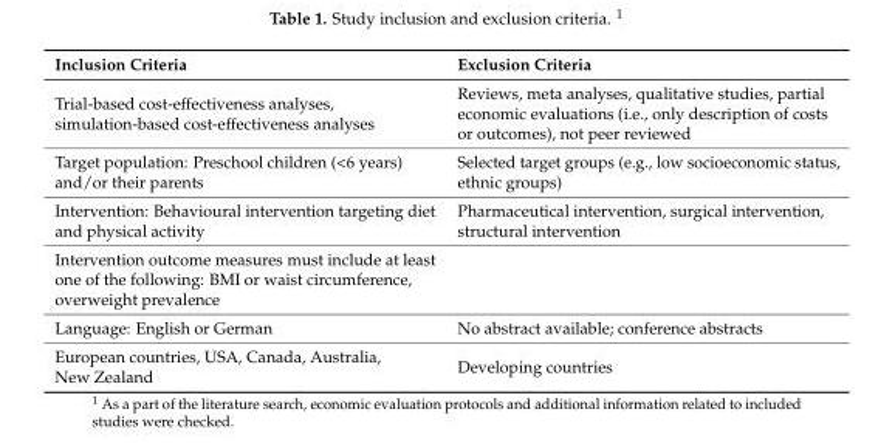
<table><thead><tr><td>Inclusion Criteria</td><td>Exclusion Criteria</td></tr></thead><tbody><tr><td>Trial-based cost-effectiveness analyses, simulation-based cost-effectiveness analyses</td><td>Reviews, meta analyses, qualitative studies, partial economic evaluations (i.e., only description of costs or outcomes), not peer reviewed</td></tr><tr><td>Target population: Preschool children (&lt;6 years) and/or their parents</td><td>Selected target groups (e.g., low socioeconomic status, ethnic groups)</td></tr><tr><td>Intervention: Behavioural intervention targeting diet and physical activity</td><td>Pharmaceutical intervention, surgical intervention, structural intervention</td></tr><tr><td colspan="2">Intervention outcome measures must include at least one of the following: BMI or waist circumference, overweight prevalence</td></tr><tr><td>Language: English or German</td><td>No abstract available; conference abstracts</td></tr><tr><td>European countries, USA, Canada, Australia, New Zealand</td><td>Developing countries</td></tr></tbody></table>